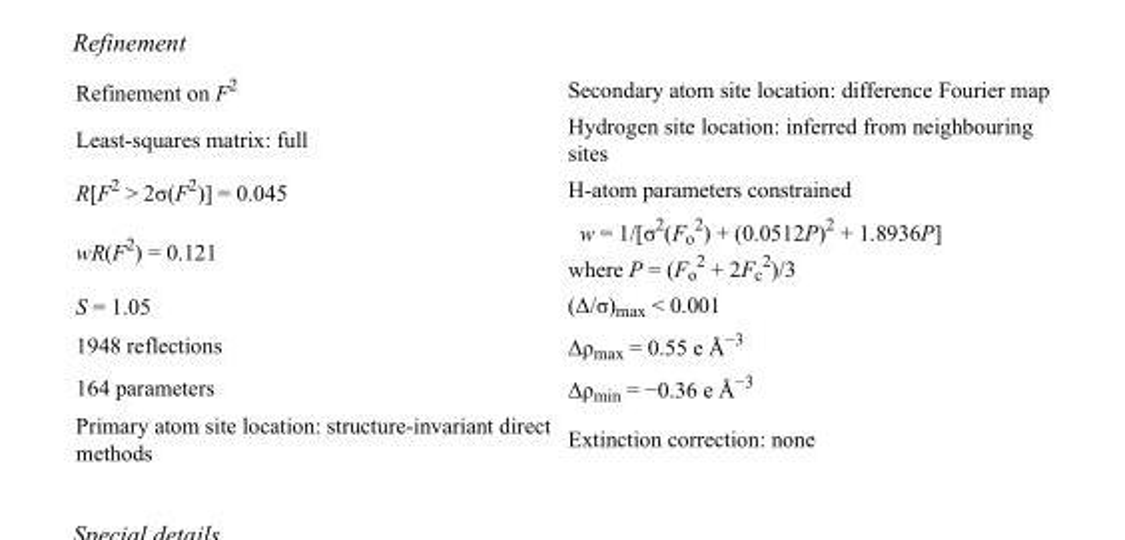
<table><tbody><tr><td>Refinement on F<sup>2</sup></td><td>Secondary atom site location: difference Fourier map</td></tr><tr><td>Least-squares matrix: full</td><td>Hydrogen site location: inferred from neighbouring sites</td></tr><tr><td>R[F<sup>2</sup> &gt; 2σ(F<sup>2</sup>)] = 0.045</td><td>H-atom parameters constrained</td></tr><tr><td>wR(F<sup>2</sup>) = 0.121</td><td>w = 1/[σ<sup>2</sup>(F<sub>o</sub> <sup>2</sup>) + (0.0512P)<sup>2</sup> + 1.8936P] where P = (F<sub>o</sub> <sup>2</sup> + 2F<sub>c</sub> <sup>2</sup>)/3</td></tr><tr><td>S = 1.05</td><td>(Δ/σ)<sub>max</sub> &lt; 0.001</td></tr><tr><td>1948 reflections</td><td>Δρ<sub>max</sub> = 0.55 e Å<sup>−3</sup></td></tr><tr><td>164 parameters</td><td>Δρ<sub>min</sub> = −0.36 e Å<sup>−3</sup></td></tr><tr><td>Primary atom site location: structure-invariant direct methods</td><td>Extinction correction: none</td></tr></tbody></table>